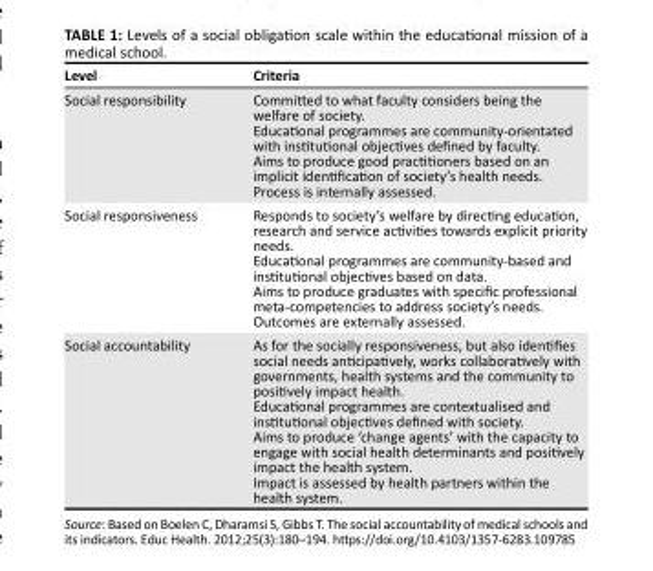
<table><thead><tr><td>Level</td><td>Criteria</td></tr></thead><tbody><tr><td>Social responsibility</td><td>Committed to what faculty considers being the welfare of society. Educational programmes are community-orientated with institutional objectives defined by faculty. Aims to produce good practitioners based on an implicit identification of society’s health needs. Process is internally assessed.</td></tr><tr><td>Social responsiveness</td><td>Responds to society’s welfare by directing education, research and service activities towards explicit priority needs. Educational programmes are community-based and institutional objectives based on data. Aims to produce graduates with specific professional meta-competencies to address society’s needs. Outcomes are externally assessed.</td></tr><tr><td>Social accountability</td><td>As for the socially responsiveness, but also identifies social needs anticipatively, works collaboratively with governments, health systems and the community to positively impact health. Educational programmes are contextualised and institutional objectives defined with society. Aims to produce ‘change agents’ with the capacity to engage with social health determinants and positively impact the health system. Impact is assessed by health partners within the health system.</td></tr></tbody></table>